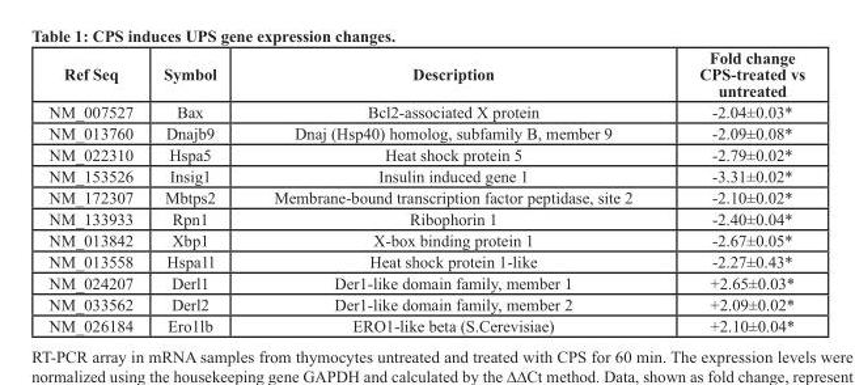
<table><thead><tr><td>Ref Seq</td><td>Symbol</td><td>Description</td><td>Fold change CPS-treated vs untreated</td></tr></thead><tbody><tr><td>NM_007527</td><td>Bax</td><td>Bcl2-associated X protein</td><td>-2.04±0.03*</td></tr><tr><td>NM_013760</td><td>Dnajb9</td><td>Dnaj (Hsp40) homolog, subfamily B, member 9</td><td>-2.09±0.08*</td></tr><tr><td>NM_022310</td><td>Hspa5</td><td>Heat shock protein 5</td><td>-2.79±0.02*</td></tr><tr><td>NM_153526</td><td>Insig1</td><td>Insulin induced gene 1</td><td>-3.31±0.02*</td></tr><tr><td>NM_172307</td><td>Mbtps2</td><td>Membrane-bound transcription factor peptidase, site 2</td><td>-2.10±0.02*</td></tr><tr><td>NM_133933</td><td>Rpn1</td><td>Ribophorin 1</td><td>-2.40±0.04*</td></tr><tr><td>NM_013842</td><td>Xbp1</td><td>X-box binding protein 1</td><td>-2.67±0.05*</td></tr><tr><td>NM_013558</td><td>Hspa1l</td><td>Heat shock protein 1-like</td><td>-2.27±0.43*</td></tr><tr><td>NM_024207</td><td>Derl1</td><td>Der1-like domain family, member 1</td><td>+2.65±0.03*</td></tr><tr><td>NM_033562</td><td>Derl2</td><td>Der1-like domain family, member 2</td><td>+2.09±0.02*</td></tr><tr><td>NM_026184</td><td>Ero1lb</td><td>ERO1-like beta (S.Cerevisiae)</td><td>+2.10±0.04*</td></tr></tbody></table>